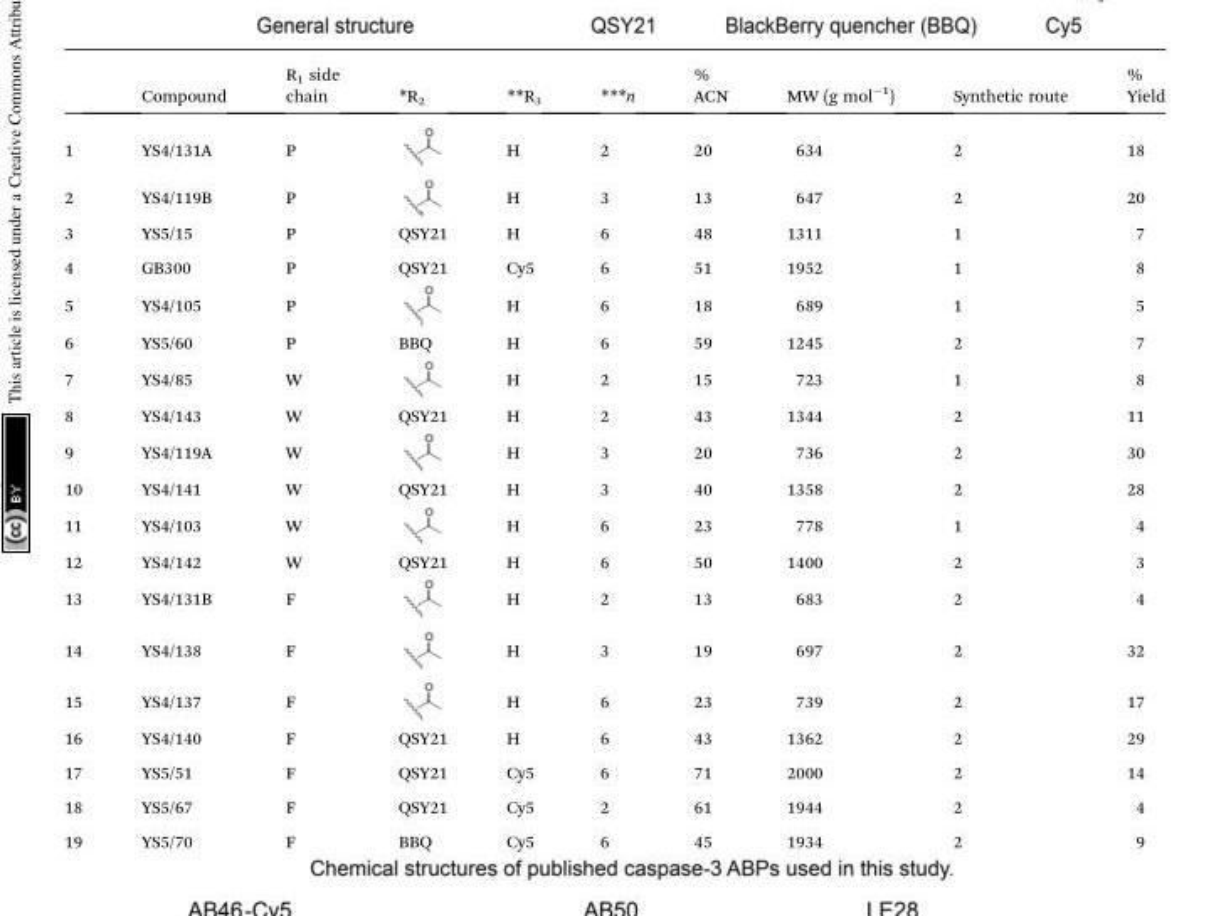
<table><thead><tr><td></td><td>Compound</td><td>R<sub>1</sub> side chain</td><td>*R<sub>2</sub></td><td>**R<sub>3</sub></td><td>***n</td><td>% ACN</td><td>MW (g mol<sup>–1</sup>)</td><td>Synthetic route</td><td>% Yield</td></tr></thead><tbody><tr><td>1</td><td>YS4/131A</td><td>P</td><td></td><td>H</td><td>2</td><td>20</td><td>634</td><td>2</td><td>18</td></tr><tr><td>2</td><td>YS4/119B</td><td>P</td><td></td><td>H</td><td>3</td><td>13</td><td>647</td><td>2</td><td>20</td></tr><tr><td>3</td><td>YS5/15</td><td>P</td><td>QSY21</td><td>H</td><td>6</td><td>48</td><td>1311</td><td>1</td><td>7</td></tr><tr><td>4</td><td>GB300</td><td>P</td><td>QSY21</td><td>Cy5</td><td>6</td><td>51</td><td>1952</td><td>1</td><td>8</td></tr><tr><td>5</td><td>YS4/105</td><td>P</td><td></td><td>H</td><td>6</td><td>18</td><td>689</td><td>1</td><td>5</td></tr><tr><td>6</td><td>YS5/60</td><td>P</td><td>BBQ</td><td>H</td><td>6</td><td>59</td><td>1245</td><td>2</td><td>7</td></tr><tr><td>7</td><td>YS4/85</td><td>W</td><td></td><td>H</td><td>2</td><td>15</td><td>723</td><td>1</td><td>8</td></tr><tr><td>8</td><td>YS4/143</td><td>W</td><td>QSY21</td><td>H</td><td>2</td><td>43</td><td>1344</td><td>2</td><td>11</td></tr><tr><td>9</td><td>YS4/119A</td><td>W</td><td></td><td>H</td><td>3</td><td>20</td><td>736</td><td>2</td><td>30</td></tr><tr><td>10</td><td>YS4/141</td><td>W</td><td>QSY21</td><td>H</td><td>3</td><td>40</td><td>1358</td><td>2</td><td>28</td></tr><tr><td>11</td><td>YS4/103</td><td>W</td><td></td><td>H</td><td>6</td><td>23</td><td>778</td><td>1</td><td>4</td></tr><tr><td>12</td><td>YS4/142</td><td>W</td><td>QSY21</td><td>H</td><td>6</td><td>50</td><td>1400</td><td>2</td><td>3</td></tr><tr><td>13</td><td>YS4/131B</td><td>F</td><td></td><td>H</td><td>2</td><td>13</td><td>683</td><td>2</td><td>4</td></tr><tr><td>14</td><td>YS4/138</td><td>F</td><td></td><td>H</td><td>3</td><td>19</td><td>697</td><td>2</td><td>32</td></tr><tr><td>15</td><td>YS4/137</td><td>F</td><td></td><td>H</td><td>6</td><td>23</td><td>739</td><td>2</td><td>17</td></tr><tr><td>16</td><td>YS4/140</td><td>F</td><td>QSY21</td><td>H</td><td>6</td><td>43</td><td>1362</td><td>2</td><td>29</td></tr><tr><td>17</td><td>YS5/51</td><td>F</td><td>QSY21</td><td>Cy5</td><td>6</td><td>71</td><td>2000</td><td>2</td><td>14</td></tr><tr><td>18</td><td>YS5/67</td><td>F</td><td>QSY21</td><td>Cy5</td><td>2</td><td>61</td><td>1944</td><td>2</td><td>4</td></tr><tr><td>19</td><td>YS5/70</td><td>F</td><td>BBQ</td><td>Cy5</td><td>6</td><td>45</td><td>1934</td><td>2</td><td>9</td></tr></tbody></table>